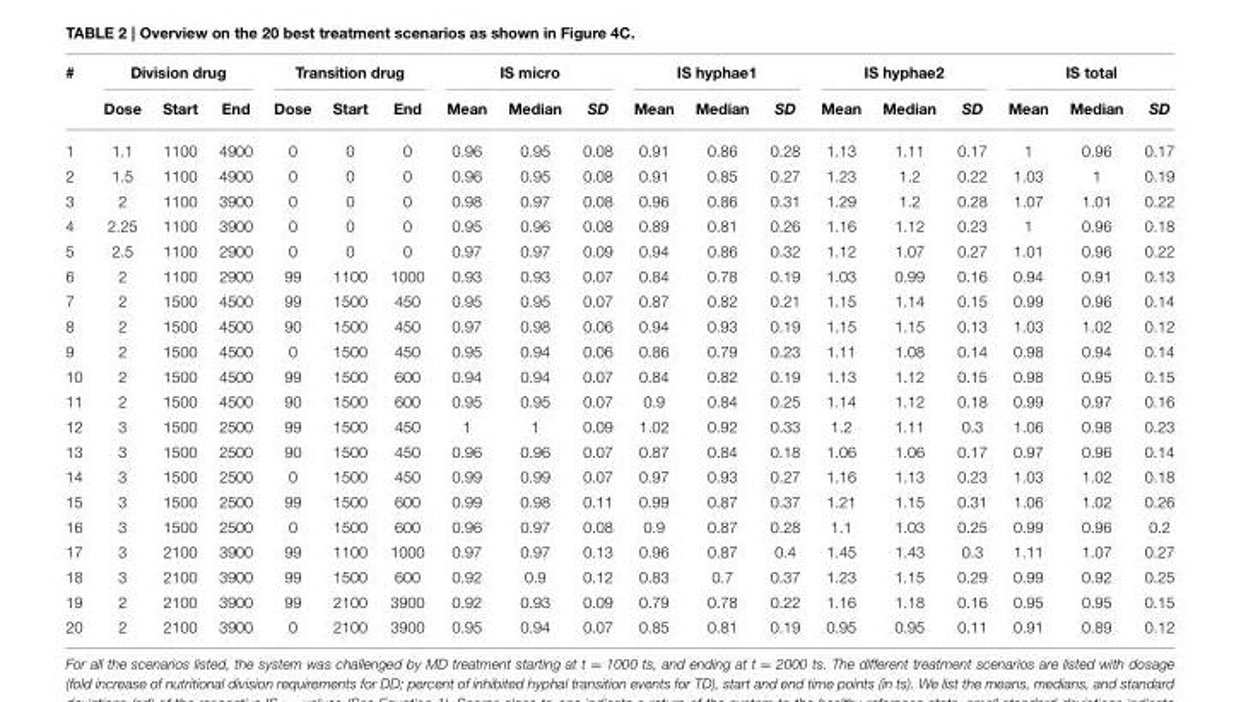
<table><thead><tr><td rowspan="2">#</td><td colspan="3">Division drug</td><td colspan="3">Transition drug</td><td colspan="3">IS micro</td><td colspan="3">IS hyphae1</td><td colspan="3">IS hyphae2</td><td colspan="3">IS total</td></tr><tr><td>Dose</td><td>Start</td><td>End</td><td>Dose</td><td>Start</td><td>End</td><td>Mean</td><td>Median</td><td>SD</td><td>Mean</td><td>Median</td><td>SD</td><td>Mean</td><td>Median</td><td>SD</td><td>Mean</td><td>Median</td><td>SD</td></tr></thead><tbody><tr><td>1</td><td>1.1</td><td>1100</td><td>4900</td><td>0</td><td>0</td><td>0</td><td>0.96</td><td>0.95</td><td>0.08</td><td>0.91</td><td>0.86</td><td>0.28</td><td>1.13</td><td>1.11</td><td>0.17</td><td>1</td><td>0.96</td><td>0.17</td></tr><tr><td>2</td><td>1.5</td><td>1100</td><td>4900</td><td>0</td><td>0</td><td>0</td><td>0.96</td><td>0.95</td><td>0.08</td><td>0.91</td><td>0.85</td><td>0.27</td><td>1.23</td><td>1.2</td><td>0.22</td><td>1.03</td><td>1</td><td>0.19</td></tr><tr><td>3</td><td>2</td><td>1100</td><td>3900</td><td>0</td><td>0</td><td>0</td><td>0.98</td><td>0.97</td><td>0.08</td><td>0.96</td><td>0.86</td><td>0.31</td><td>1.29</td><td>1.2</td><td>0.28</td><td>1.07</td><td>1.01</td><td>0.22</td></tr><tr><td>4</td><td>2.25</td><td>1100</td><td>3900</td><td>0</td><td>0</td><td>0</td><td>0.95</td><td>0.96</td><td>0.08</td><td>0.89</td><td>0.81</td><td>0.26</td><td>1.16</td><td>1.12</td><td>0.23</td><td>1</td><td>0.96</td><td>0.18</td></tr><tr><td>5</td><td>2.5</td><td>1100</td><td>2900</td><td>0</td><td>0</td><td>0</td><td>0.97</td><td>0.97</td><td>0.09</td><td>0.94</td><td>0.86</td><td>0.32</td><td>1.12</td><td>1.07</td><td>0.27</td><td>1.01</td><td>0.96</td><td>0.22</td></tr><tr><td>6</td><td>2</td><td>1100</td><td>2900</td><td>99</td><td>1100</td><td>1000</td><td>0.93</td><td>0.93</td><td>0.07</td><td>0.84</td><td>0.78</td><td>0.19</td><td>1.03</td><td>0.99</td><td>0.16</td><td>0.94</td><td>0.91</td><td>0.13</td></tr><tr><td>7</td><td>2</td><td>1500</td><td>4500</td><td>99</td><td>1500</td><td>450</td><td>0.95</td><td>0.95</td><td>0.07</td><td>0.87</td><td>0.82</td><td>0.21</td><td>1.15</td><td>1.14</td><td>0.15</td><td>0.99</td><td>0.96</td><td>0.14</td></tr><tr><td>8</td><td>2</td><td>1500</td><td>4500</td><td>90</td><td>1500</td><td>450</td><td>0.97</td><td>0.98</td><td>0.06</td><td>0.94</td><td>0.93</td><td>0.19</td><td>1.15</td><td>1.15</td><td>0.13</td><td>1.03</td><td>1.02</td><td>0.12</td></tr><tr><td>9</td><td>2</td><td>1500</td><td>4500</td><td>0</td><td>1500</td><td>450</td><td>0.95</td><td>0.94</td><td>0.06</td><td>0.86</td><td>0.79</td><td>0.23</td><td>1.11</td><td>1.08</td><td>0.14</td><td>0.98</td><td>0.94</td><td>0.14</td></tr><tr><td>10</td><td>2</td><td>1500</td><td>4500</td><td>99</td><td>1500</td><td>600</td><td>0.94</td><td>0.94</td><td>0.07</td><td>0.84</td><td>0.82</td><td>0.19</td><td>1.13</td><td>1.12</td><td>0.15</td><td>0.98</td><td>0.95</td><td>0.15</td></tr><tr><td>11</td><td>2</td><td>1500</td><td>4500</td><td>90</td><td>1500</td><td>600</td><td>0.95</td><td>0.95</td><td>0.07</td><td>0.9</td><td>0.84</td><td>0.25</td><td>1.14</td><td>1.12</td><td>0.18</td><td>0.99</td><td>0.97</td><td>0.16</td></tr><tr><td>12</td><td>3</td><td>1500</td><td>2500</td><td>99</td><td>1500</td><td>450</td><td>1</td><td>1</td><td>0.09</td><td>1.02</td><td>0.92</td><td>0.33</td><td>1.2</td><td>1.11</td><td>0.3</td><td>1.06</td><td>0.98</td><td>0.23</td></tr><tr><td>13</td><td>3</td><td>1500</td><td>2500</td><td>90</td><td>1500</td><td>450</td><td>0.96</td><td>0.96</td><td>0.07</td><td>0.87</td><td>0.84</td><td>0.18</td><td>1.06</td><td>1.06</td><td>0.17</td><td>0.97</td><td>0.96</td><td>0.14</td></tr><tr><td>14</td><td>3</td><td>1500</td><td>2500</td><td>0</td><td>1500</td><td>450</td><td>0.99</td><td>0.99</td><td>0.07</td><td>0.97</td><td>0.93</td><td>0.27</td><td>1.16</td><td>1.13</td><td>0.23</td><td>1.03</td><td>1.02</td><td>0.18</td></tr><tr><td>15</td><td>3</td><td>1500</td><td>2500</td><td>99</td><td>1500</td><td>600</td><td>0.99</td><td>0.98</td><td>0.11</td><td>0.99</td><td>0.87</td><td>0.37</td><td>1.21</td><td>1.15</td><td>0.31</td><td>1.06</td><td>1.02</td><td>0.26</td></tr><tr><td>16</td><td>3</td><td>1500</td><td>2500</td><td>0</td><td>1500</td><td>600</td><td>0.96</td><td>0.97</td><td>0.08</td><td>0.9</td><td>0.87</td><td>0.28</td><td>1.1</td><td>1.03</td><td>0.25</td><td>0.99</td><td>0.96</td><td>0.2</td></tr><tr><td>17</td><td>3</td><td>2100</td><td>3900</td><td>99</td><td>1100</td><td>1000</td><td>0.97</td><td>0.97</td><td>0.13</td><td>0.96</td><td>0.87</td><td>0.4</td><td>1.45</td><td>1.43</td><td>0.3</td><td>1.11</td><td>1.07</td><td>0.27</td></tr><tr><td>18</td><td>3</td><td>2100</td><td>3900</td><td>99</td><td>1500</td><td>600</td><td>0.92</td><td>0.9</td><td>0.12</td><td>0.83</td><td>0.7</td><td>0.37</td><td>1.23</td><td>1.15</td><td>0.29</td><td>0.99</td><td>0.92</td><td>0.25</td></tr><tr><td>19</td><td>2</td><td>2100</td><td>3900</td><td>99</td><td>2100</td><td>3900</td><td>0.92</td><td>0.93</td><td>0.09</td><td>0.79</td><td>0.78</td><td>0.22</td><td>1.16</td><td>1.18</td><td>0.16</td><td>0.95</td><td>0.95</td><td>0.15</td></tr><tr><td>20</td><td>2</td><td>2100</td><td>3900</td><td>0</td><td>2100</td><td>3900</td><td>0.95</td><td>0.94</td><td>0.07</td><td>0.85</td><td>0.81</td><td>0.19</td><td>0.95</td><td>0.95</td><td>0.11</td><td>0.91</td><td>0.89</td><td>0.12</td></tr></tbody></table>